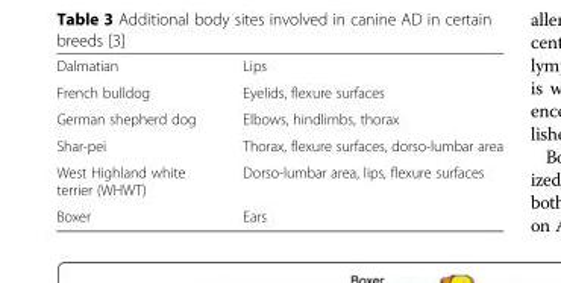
<table><tbody><tr><td>Dalmatian</td><td>Lips</td></tr><tr><td>French bulldog</td><td>Eyelids, flexure surfaces</td></tr><tr><td>German shepherd dog</td><td>Elbows, hindlimbs, thorax</td></tr><tr><td>Shar-pei</td><td>Thorax, flexure surfaces, dorso-lumbar area</td></tr><tr><td>West Highland white terrier (WHWT)</td><td>Dorso-lumbar area, lips, flexure surfaces</td></tr><tr><td>Boxer</td><td>Ears</td></tr></tbody></table>